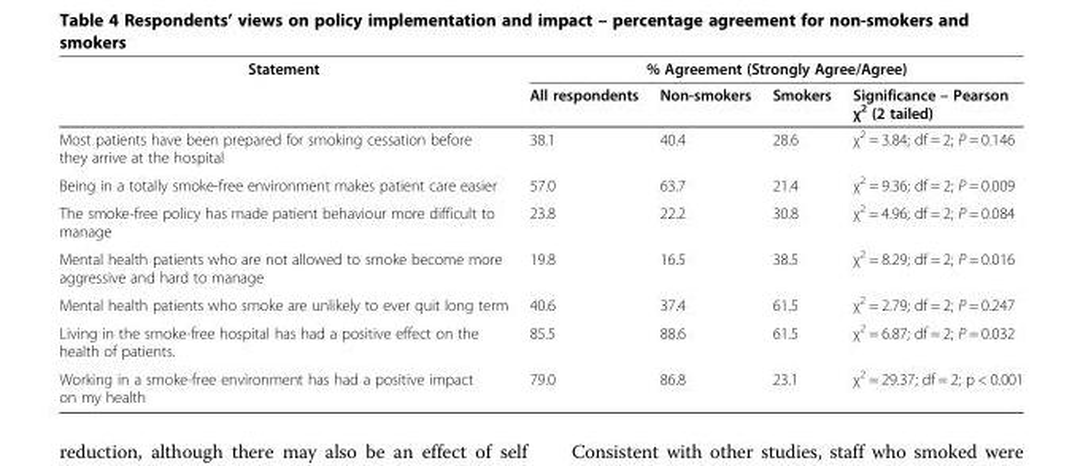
<table><thead><tr><td rowspan="2">Statement</td><td colspan="4">% Agreement (Strongly Agree/Agree)</td></tr><tr><td>All respondents</td><td>Non-smokers</td><td>Smokers</td><td>Significance – Pearson χ<sup>2</sup> (2 tailed)</td></tr></thead><tbody><tr><td>Most patients have been prepared for smoking cessation before they arrive at the hospital</td><td>38.1</td><td>40.4</td><td>28.6</td><td>χ<sup>2</sup> = 3.84; df = 2; P = 0.146</td></tr><tr><td>Being in a totally smoke-free environment makes patient care easier</td><td>57.0</td><td>63.7</td><td>21.4</td><td>χ<sup>2</sup> = 9.36; df = 2; P = 0.009</td></tr><tr><td>The smoke-free policy has made patient behaviour more difficult to manage</td><td>23.8</td><td>22.2</td><td>30.8</td><td>χ<sup>2</sup> = 4.96; df = 2; P = 0.084</td></tr><tr><td>Mental health patients who are not allowed to smoke become more aggressive and hard to manage</td><td>19.8</td><td>16.5</td><td>38.5</td><td>χ<sup>2</sup> = 8.29; df = 2; P = 0.016</td></tr><tr><td>Mental health patients who smoke are unlikely to ever quit long term</td><td>40.6</td><td>37.4</td><td>61.5</td><td>χ<sup>2</sup> = 2.79; df = 2; P = 0.247</td></tr><tr><td>Living in the smoke-free hospital has had a positive effect on the health of patients.</td><td>85.5</td><td>88.6</td><td>61.5</td><td>χ<sup>2</sup> = 6.87; df = 2; P = 0.032</td></tr><tr><td>Working in a smoke-free environment has had a positive impact on my health</td><td>79.0</td><td>86.8</td><td>23.1</td><td>χ<sup>2</sup> = 29.37; df = 2; p &lt; 0.001</td></tr></tbody></table>